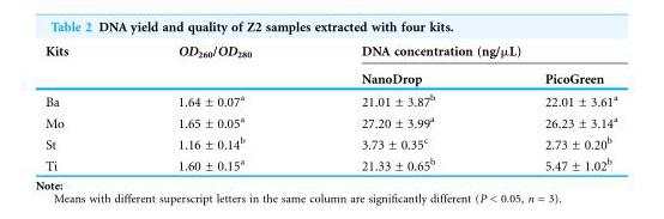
<table><thead><tr><td rowspan="2">Kits</td><td rowspan="2">OD<sub>260</sub>/OD<sub>280</sub></td><td colspan="2">DNA concentration (ng/μL)</td></tr><tr><td>NanoDrop</td><td>PicoGreen</td></tr></thead><tbody><tr><td>Ba</td><td>1.64 ± 0.07<sup>a</sup></td><td>21.01 ± 3.87<sup>b</sup></td><td>22.01 ± 3.61<sup>a</sup></td></tr><tr><td>Mo</td><td>1.65 ± 0.05<sup>a</sup></td><td>27.20 ± 3.99<sup>a</sup></td><td>26.23 ± 3.14<sup>a</sup></td></tr><tr><td>St</td><td>1.16 ± 0.14<sup>b</sup></td><td>3.73 ± 0.35<sup>c</sup></td><td>2.73 ± 0.20<sup>b</sup></td></tr><tr><td>Ti</td><td>1.60 ± 0.15<sup>a</sup></td><td>21.33 ± 0.65<sup>b</sup></td><td>5.47 ± 1.02<sup>b</sup></td></tr></tbody></table>